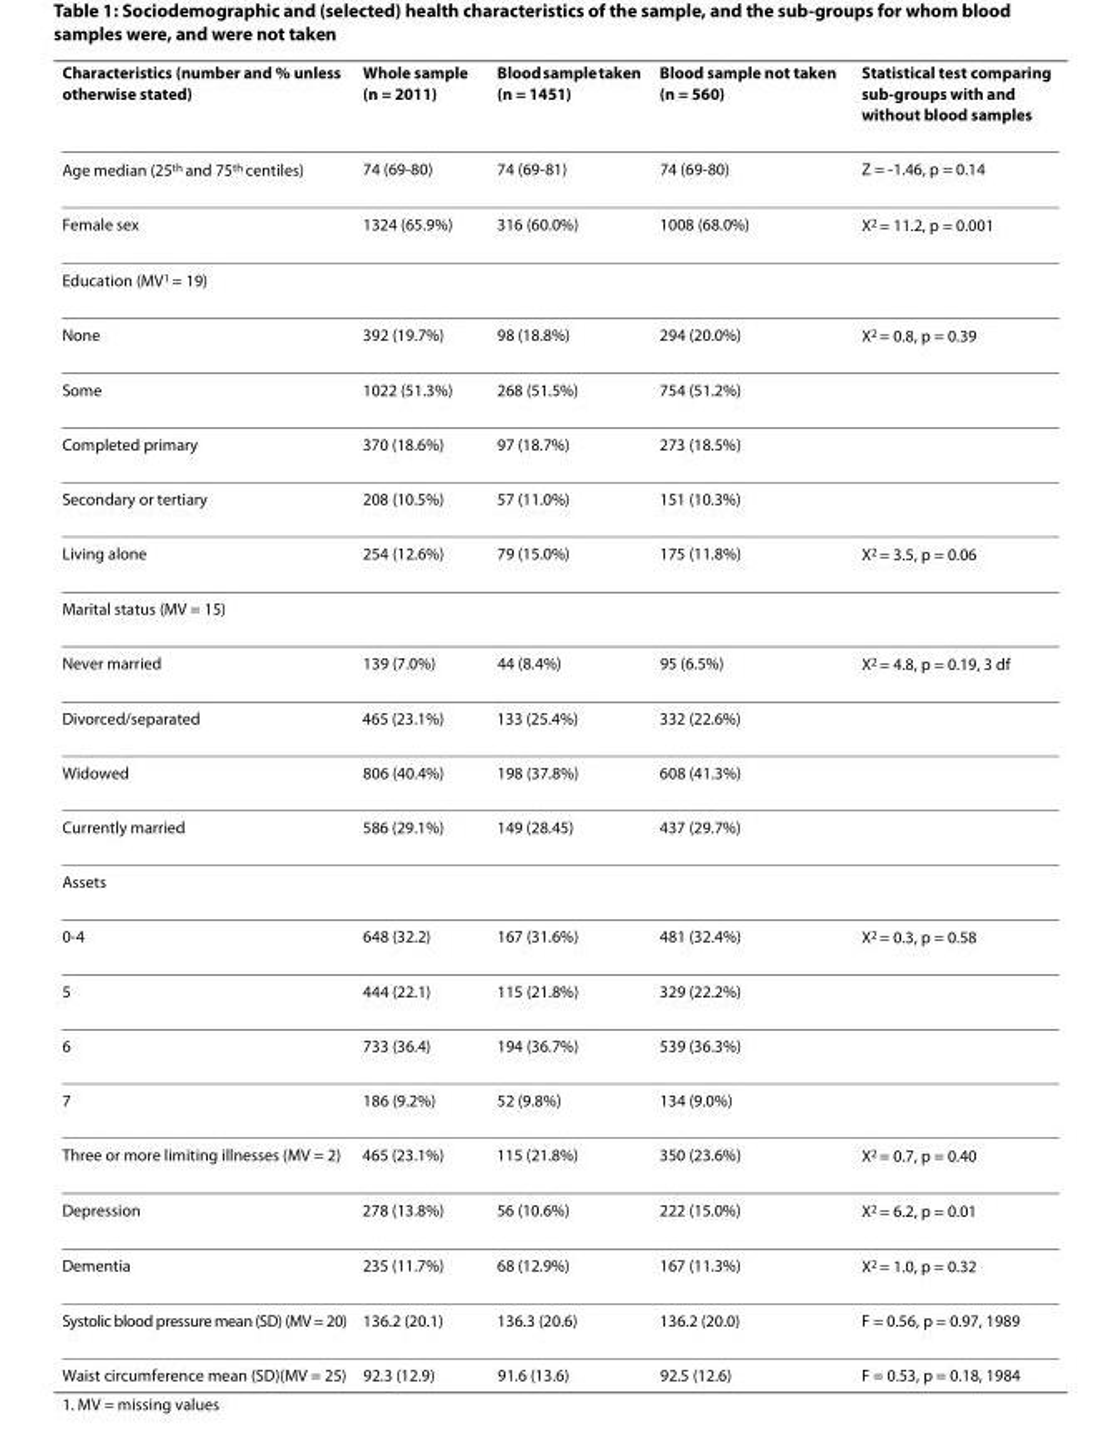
<table><thead><tr><td>Characteristics (number and % unless otherwise stated)</td><td>Whole sample (n = 2011)</td><td>Blood sample taken (n = 1451)</td><td>Blood sample not taken (n = 560)</td><td>Statistical test comparing sub-groups with and without blood samples</td></tr></thead><tbody><tr><td>Age median (25<sup>th</sup> and 75<sup>th</sup> centiles)</td><td>74 (69-80)</td><td>74 (69-81)</td><td>74 (69-80)</td><td>Z = -1.46, p = 0.14</td></tr><tr><td>Female sex</td><td>1324 (65.9%)</td><td>316 (60.0%)</td><td>1008 (68.0%)</td><td>X<sup>2</sup> = 11.2, p = 0.001</td></tr><tr><td colspan="5">Education (MV<sup>1</sup> = 19)</td></tr><tr><td>None</td><td>392 (19.7%)</td><td>98 (18.8%)</td><td>294 (20.0%)</td><td>X<sup>2</sup> = 0.8, p = 0.39</td></tr><tr><td>Some</td><td>1022 (51.3%)</td><td>268 (51.5%)</td><td>754 (51.2%)</td><td></td></tr><tr><td>Completed primary</td><td>370 (18.6%)</td><td>97 (18.7%)</td><td>273 (18.5%)</td><td></td></tr><tr><td>Secondary or tertiary</td><td>208 (10.5%)</td><td>57 (11.0%)</td><td>151 (10.3%)</td><td></td></tr><tr><td>Living alone</td><td>254 (12.6%)</td><td>79 (15.0%)</td><td>175 (11.8%)</td><td>X<sup>2</sup> = 3.5, p = 0.06</td></tr><tr><td colspan="5">Marital status (MV = 15)</td></tr><tr><td>Never married</td><td>139 (7.0%)</td><td>44 (8.4%)</td><td>95 (6.5%)</td><td>X<sup>2</sup> = 4.8, p = 0.19, 3 df</td></tr><tr><td>Divorced/separated</td><td>465 (23.1%)</td><td>133 (25.4%)</td><td>332 (22.6%)</td><td></td></tr><tr><td>Widowed</td><td>806 (40.4%)</td><td>198 (37.8%)</td><td>608 (41.3%)</td><td></td></tr><tr><td>Currently married</td><td>586 (29.1%)</td><td>149 (28.45)</td><td>437 (29.7%)</td><td></td></tr><tr><td colspan="5">Assets</td></tr><tr><td>0-4</td><td>648 (32.2)</td><td>167 (31.6%)</td><td>481 (32.4%)</td><td>X<sup>2</sup> = 0.3, p = 0.58</td></tr><tr><td>5</td><td>444 (22.1)</td><td>115 (21.8%)</td><td>329 (22.2%)</td><td></td></tr><tr><td>6</td><td>733 (36.4)</td><td>194 (36.7%)</td><td>539 (36.3%)</td><td></td></tr><tr><td>7</td><td>186 (9.2%)</td><td>52 (9.8%)</td><td>134 (9.0%)</td><td></td></tr><tr><td>Three or more limiting illnesses (MV = 2)</td><td>465 (23.1%)</td><td>115 (21.8%)</td><td>350 (23.6%)</td><td>X<sup>2</sup> = 0.7, p = 0.40</td></tr><tr><td>Depression</td><td>278 (13.8%)</td><td>56 (10.6%)</td><td>222 (15.0%)</td><td>X<sup>2</sup> = 6.2, p = 0.01</td></tr><tr><td>Dementia</td><td>235 (11.7%)</td><td>68 (12.9%)</td><td>167 (11.3%)</td><td>X<sup>2</sup> = 1.0, p = 0.32</td></tr><tr><td>Systolic blood pressure mean (SD) (MV = 20)</td><td>136.2 (20.1)</td><td>136.3 (20.6)</td><td>136.2 (20.0)</td><td>F = 0.56, p = 0.97, 1989</td></tr><tr><td>Waist circumference mean (SD)(MV = 25)</td><td>92.3 (12.9)</td><td>91.6 (13.6)</td><td>92.5 (12.6)</td><td>F = 0.53, p = 0.18, 1984</td></tr></tbody></table>